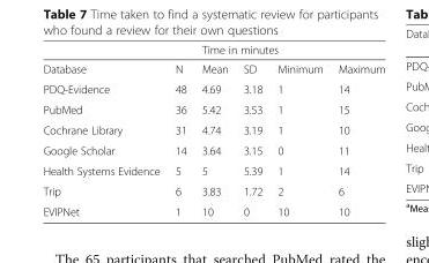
<table><thead><tr><td rowspan="2">Database</td><td rowspan="2">N</td><td colspan="4">Time in minutes</td></tr><tr><td>Mean</td><td>SD</td><td>Minimum</td><td>Maximum</td></tr></thead><tbody><tr><td>PDQ-Evidence</td><td>48</td><td>4.69</td><td>3.18</td><td>1</td><td>14</td></tr><tr><td>PubMed</td><td>36</td><td>5.42</td><td>3.53</td><td>1</td><td>15</td></tr><tr><td>Cochrane Library</td><td>31</td><td>4.74</td><td>3.19</td><td>1</td><td>10</td></tr><tr><td>Google Scholar</td><td>14</td><td>3.64</td><td>3.15</td><td>0</td><td>11</td></tr><tr><td>Health Systems Evidence</td><td>5</td><td>5</td><td>5.39</td><td>1</td><td>14</td></tr><tr><td>Trip</td><td>6</td><td>3.83</td><td>1.72</td><td>2</td><td>6</td></tr><tr><td>EVIPNet</td><td>1</td><td>10</td><td>0</td><td>10</td><td>10</td></tr></tbody></table>